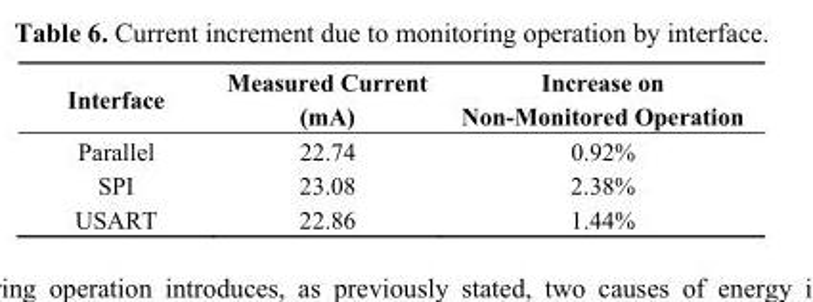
<table><thead><tr><td>Interface</td><td>Measured Current (mA)</td><td>Increase on Non-Monitored Operation</td></tr></thead><tbody><tr><td>Parallel</td><td>22.74</td><td>0.92%</td></tr><tr><td>SPI</td><td>23.08</td><td>2.38%</td></tr><tr><td>USART</td><td>22.86</td><td>1.44%</td></tr></tbody></table>